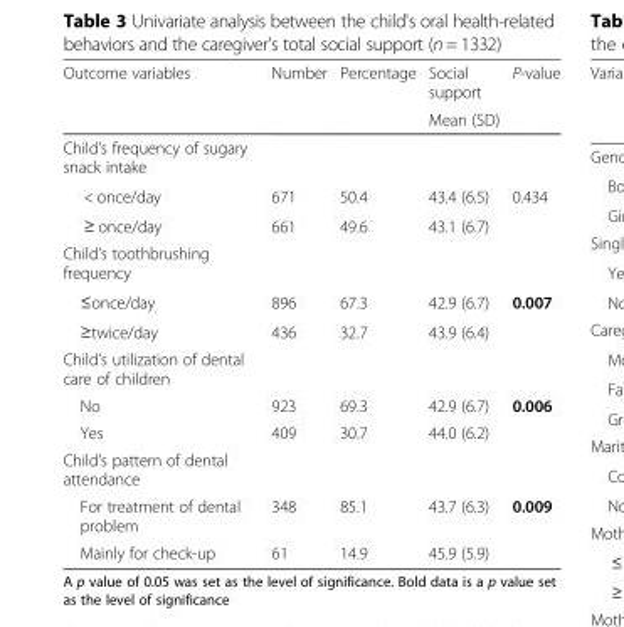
<table><thead><tr><td rowspan="2">Outcome variables</td><td rowspan="2">Number</td><td rowspan="2">Percentage</td><td rowspan="2">Social support Mean (SD)</td><td rowspan="2">P-value</td></tr><tr></tr></thead><tbody><tr><td colspan="5">Child’s frequency of sugary snack intake</td></tr><tr><td>&lt; once/day</td><td>671</td><td>50.4</td><td>43.4 (6.5)</td><td>0.434</td></tr><tr><td>≥ once/day</td><td>661</td><td>49.6</td><td>43.1 (6.7)</td><td></td></tr><tr><td colspan="5">Child’s toothbrushing frequency</td></tr><tr><td>≤once/day</td><td>896</td><td>67.3</td><td>42.9 (6.7)</td><td>0.007</td></tr><tr><td>≥twice/day</td><td>436</td><td>32.7</td><td>43.9 (6.4)</td><td></td></tr><tr><td colspan="5">Child’s utilization of dental care of children</td></tr><tr><td>No</td><td>923</td><td>69.3</td><td>42.9 (6.7)</td><td rowspan="2">0.006</td></tr><tr><td>Yes</td><td>409</td><td>30.7</td><td>44.0 (6.2)</td></tr><tr><td colspan="5">Child’s pattern of dental attendance</td></tr><tr><td>For treatment of dental problem</td><td>348</td><td>85.1</td><td>43.7 (6.3)</td><td>0.009</td></tr><tr><td>Mainly for check-up</td><td>61</td><td>14.9</td><td>45.9 (5.9)</td><td></td></tr></tbody></table>